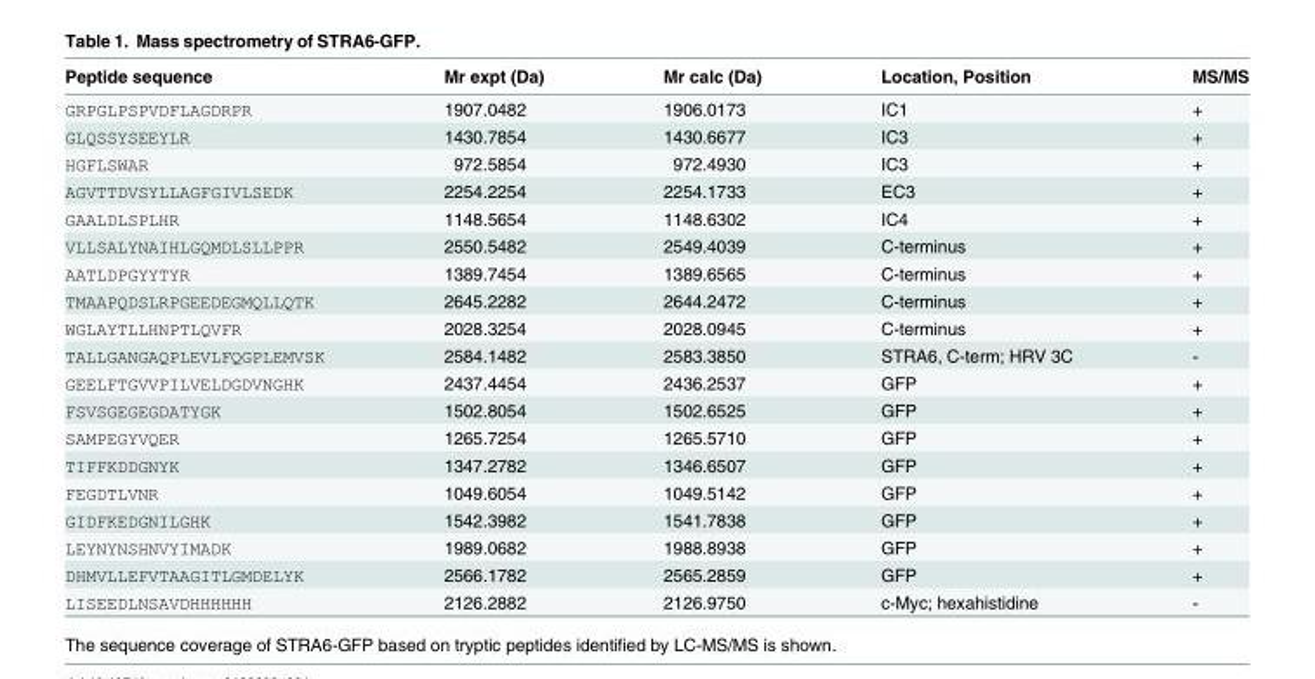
<table><thead><tr><td>Peptide sequence</td><td>Mr expt (Da)</td><td>Mr calc (Da)</td><td>Location, Position</td><td>MS/MS</td></tr></thead><tbody><tr><td>GRPGLPSPVDFLAGDRPR</td><td>1907.0482</td><td>1906.0173</td><td>IC1</td><td>+</td></tr><tr><td>GLQSSYSEEYLR</td><td>1430.7854</td><td>1430.6677</td><td>IC3</td><td>+</td></tr><tr><td>HGFLSWAR</td><td>972.5854</td><td>972.4930</td><td>IC3</td><td>+</td></tr><tr><td>AGVTTDVSYLLAGFGIVLSEDK</td><td>2254.2254</td><td>2254.1733</td><td>EC3</td><td>+</td></tr><tr><td>GAALDLSPLHR</td><td>1148.5654</td><td>1148.6302</td><td>IC4</td><td>+</td></tr><tr><td>VLLSALYNAIHLGQMDLSLLPPR</td><td>2550.5482</td><td>2549.4039</td><td>C-terminus</td><td>+</td></tr><tr><td>AATLDPGYYTYR</td><td>1389.7454</td><td>1389.6565</td><td>C-terminus</td><td>+</td></tr><tr><td>TMAAPQDSLRPGEEDEGMQLLQTK</td><td>2645.2282</td><td>2644.2472</td><td>C-terminus</td><td>+</td></tr><tr><td>WGLAYTLLHNPTLQVFR</td><td>2028.3254</td><td>2028.0945</td><td>C-terminus</td><td>+</td></tr><tr><td>TALLGANGAQPLEVLFQGPLEMVSK</td><td>2584.1482</td><td>2583.3850</td><td>STRA6, C-term; HRV 3C</td><td>-</td></tr><tr><td>GEELFTGVVPILVELDGDVNGHK</td><td>2437.4454</td><td>2436.2537</td><td>GFP</td><td>+</td></tr><tr><td>FSVSGEGEGDATYGK</td><td>1502.8054</td><td>1502.6525</td><td>GFP</td><td>+</td></tr><tr><td>SAMPEGYVQER</td><td>1265.7254</td><td>1265.5710</td><td>GFP</td><td>+</td></tr><tr><td>TIFFKDDGNYK</td><td>1347.2782</td><td>1346.6507</td><td>GFP</td><td>+</td></tr><tr><td>FEGDTLVNR</td><td>1049.6054</td><td>1049.5142</td><td>GFP</td><td>+</td></tr><tr><td>GIDFKEDGNILGHK</td><td>1542.3982</td><td>1541.7838</td><td>GFP</td><td>+</td></tr><tr><td>LEYNYNSHNVYIMADK</td><td>1989.0682</td><td>1988.8938</td><td>GFP</td><td>+</td></tr><tr><td>DHMVLLEFVTAAGITLGMDELYK</td><td>2566.1782</td><td>2565.2859</td><td>GFP</td><td>+</td></tr><tr><td>LISEEDLNSAVDHHHHHH</td><td>2126.2882</td><td>2126.9750</td><td>c-Myc; hexahistidine</td><td>-</td></tr></tbody></table>